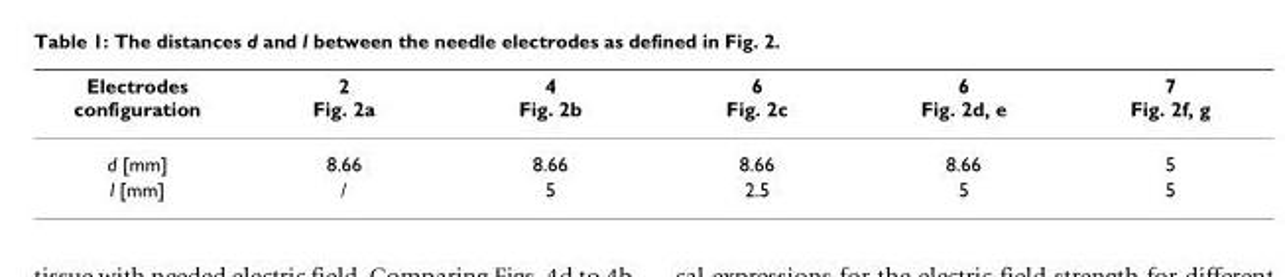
<table><thead><tr><td>Electrodes configuration</td><td>2 Fig. 2a</td><td>4 Fig. 2b</td><td>6 Fig. 2c</td><td>6 Fig. 2d, e</td><td>7 Fig. 2f, g</td></tr></thead><tbody><tr><td>d [mm]</td><td>8.66</td><td>8.66</td><td>8.66</td><td>8.66</td><td>5</td></tr><tr><td>l [mm]</td><td>/</td><td>5</td><td>2.5</td><td>5</td><td>5</td></tr></tbody></table>